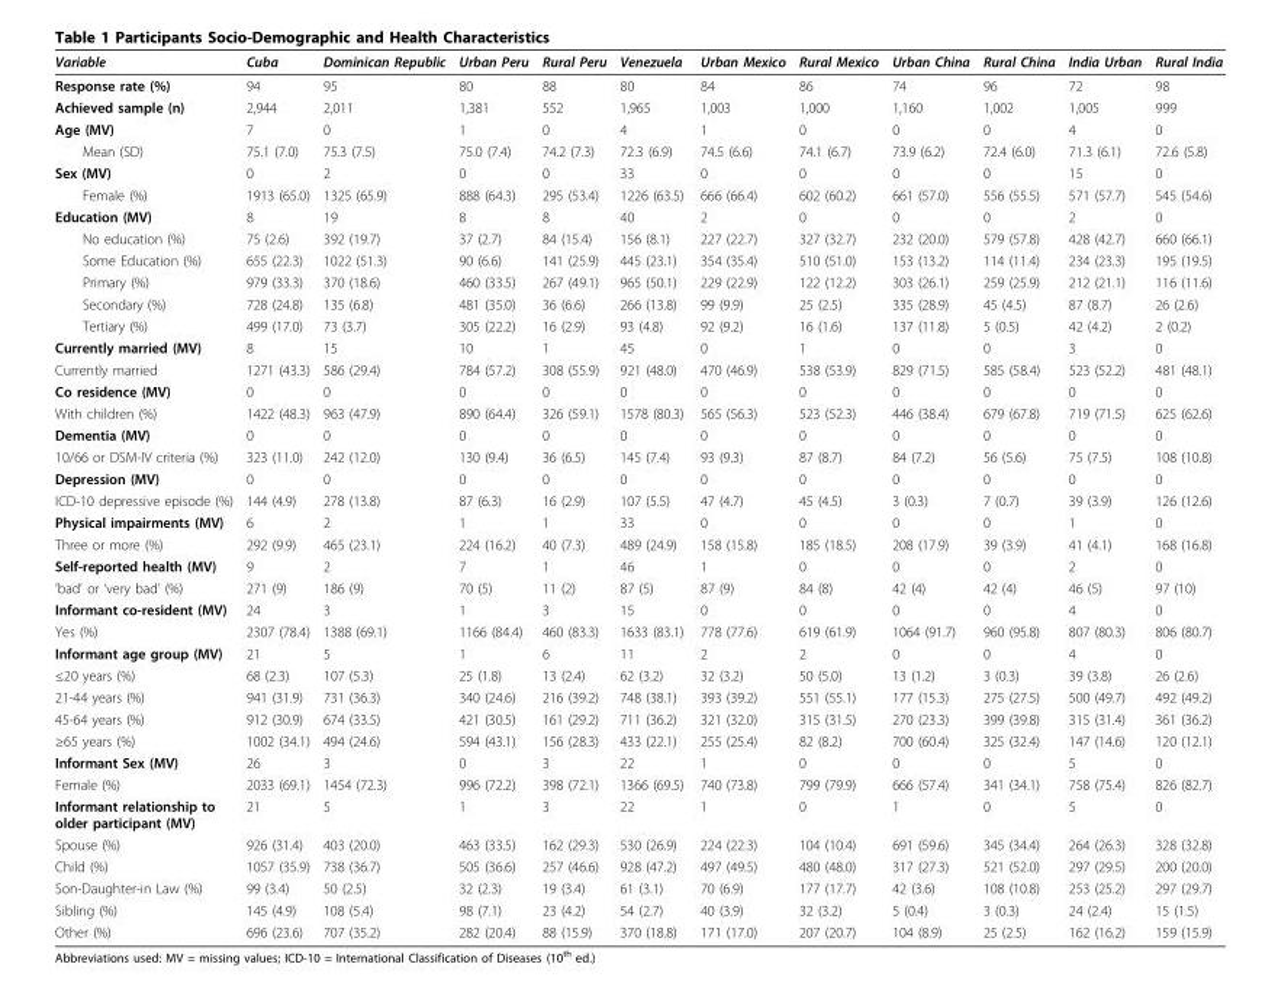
<table><thead><tr><td>Variable</td><td>Cuba</td><td>Dominican Republic</td><td>Urban Peru</td><td>Rural Peru</td><td>Venezuela</td><td>Urban Mexico</td><td>Rural Mexico</td><td>Urban China</td><td>Rural China</td><td>India Urban</td><td>Rural India</td></tr></thead><tbody><tr><td>Response rate (%)</td><td>94</td><td>95</td><td>80</td><td>88</td><td>80</td><td>84</td><td>86</td><td>74</td><td>96</td><td>72</td><td>98</td></tr><tr><td>Achieved sample (n)</td><td>2,944</td><td>2,011</td><td>1,381</td><td>552</td><td>1,965</td><td>1,003</td><td>1,000</td><td>1,160</td><td>1,002</td><td>1,005</td><td>999</td></tr><tr><td>Age (MV)</td><td>7</td><td>0</td><td>1</td><td>0</td><td>4</td><td>1</td><td>0</td><td>0</td><td>0</td><td>4</td><td>0</td></tr><tr><td>Mean (SD)</td><td>75.1 (7.0)</td><td>75.3 (7.5)</td><td>75.0 (7.4)</td><td>74.2 (7.3)</td><td>72.3 (6.9)</td><td>74.5 (6.6)</td><td>74.1 (6.7)</td><td>73.9 (6.2)</td><td>72.4 (6.0)</td><td>71.3 (6.1)</td><td>72.6 (5.8)</td></tr><tr><td>Sex (MV)</td><td>0</td><td>2</td><td>0</td><td>0</td><td>33</td><td>0</td><td>0</td><td>0</td><td>0</td><td>15</td><td>0</td></tr><tr><td>Female (%)</td><td>1913 (65.0)</td><td>1325 (65.9)</td><td>888 (64.3)</td><td>295 (53.4)</td><td>1226 (63.5)</td><td>666 (66.4)</td><td>602 (60.2)</td><td>661 (57.0)</td><td>556 (55.5)</td><td>571 (57.7)</td><td>545 (54.6)</td></tr><tr><td>Education (MV)</td><td>8</td><td>19</td><td>8</td><td>8</td><td>40</td><td>2</td><td>0</td><td>0</td><td>0</td><td>2</td><td>0</td></tr><tr><td>No education (%)</td><td>75 (2.6)</td><td>392 (19.7)</td><td>37 (2.7)</td><td>84 (15.4)</td><td>156 (8.1)</td><td>227 (22.7)</td><td>327 (32.7)</td><td>232 (20.0)</td><td>579 (57.8)</td><td>428 (42.7)</td><td>660 (66.1)</td></tr><tr><td>Some Education (%)</td><td>655 (22.3)</td><td>1022 (51.3)</td><td>90 (6.6)</td><td>141 (25.9)</td><td>445 (23.1)</td><td>354 (35.4)</td><td>510 (51.0)</td><td>153 (13.2)</td><td>114 (11.4)</td><td>234 (23.3)</td><td>195 (19.5)</td></tr><tr><td>Primary (%)</td><td>979 (33.3)</td><td>370 (18.6)</td><td>460 (33.5)</td><td>267 (49.1)</td><td>965 (50.1)</td><td>229 (22.9)</td><td>122 (12.2)</td><td>303 (26.1)</td><td>259 (25.9)</td><td>212 (21.1)</td><td>116 (11.6)</td></tr><tr><td>Secondary (%)</td><td>728 (24.8)</td><td>135 (6.8)</td><td>481 (35.0)</td><td>36 (6.6)</td><td>266 (13.8)</td><td>99 (9.9)</td><td>25 (2.5)</td><td>335 (28.9)</td><td>45 (4.5)</td><td>87 (8.7)</td><td>26 (2.6)</td></tr><tr><td>Tertiary (%)</td><td>499 (17.0)</td><td>73 (3.7)</td><td>305 (22.2)</td><td>16 (2.9)</td><td>93 (4.8)</td><td>92 (9.2)</td><td>16 (1.6)</td><td>137 (11.8)</td><td>5 (0.5)</td><td>42 (4.2)</td><td>2 (0.2)</td></tr><tr><td>Currently married (MV)</td><td>8</td><td>15</td><td>10</td><td>1</td><td>45</td><td>0</td><td>1</td><td>0</td><td>0</td><td>3</td><td>0</td></tr><tr><td>Currently married</td><td>1271 (43.3)</td><td>586 (29.4)</td><td>784 (57.2)</td><td>308 (55.9)</td><td>921 (48.0)</td><td>470 (46.9)</td><td>538 (53.9)</td><td>829 (71.5)</td><td>585 (58.4)</td><td>523 (52.2)</td><td>481 (48.1)</td></tr><tr><td>Co residence (MV)</td><td>0</td><td>0</td><td>0</td><td>0</td><td>0</td><td>0</td><td>0</td><td>0</td><td>0</td><td>0</td><td>0</td></tr><tr><td>With children (%)</td><td>1422 (48.3)</td><td>963 (47.9)</td><td>890 (64.4)</td><td>326 (59.1)</td><td>1578 (80.3)</td><td>565 (56.3)</td><td>523 (52.3)</td><td>446 (38.4)</td><td>679 (67.8)</td><td>719 (71.5)</td><td>625 (62.6)</td></tr><tr><td>Dementia (MV)</td><td>0</td><td>0</td><td>0</td><td>0</td><td>0</td><td>0</td><td>0</td><td>0</td><td>0</td><td>0</td><td>0</td></tr><tr><td>10/66 or DSM-IV criteria (%)</td><td>323 (11.0)</td><td>242 (12.0)</td><td>130 (9.4)</td><td>36 (6.5)</td><td>145 (7.4)</td><td>93 (9.3)</td><td>87 (8.7)</td><td>84 (7.2)</td><td>56 (5.6)</td><td>75 (7.5)</td><td>108 (10.8)</td></tr><tr><td>Depression (MV)</td><td>0</td><td>0</td><td>0</td><td>0</td><td>0</td><td>0</td><td>0</td><td>0</td><td>0</td><td>0</td><td>0</td></tr><tr><td>ICD-10 depressive episode (%)</td><td>144 (4.9)</td><td>278 (13.8)</td><td>87 (6.3)</td><td>16 (2.9)</td><td>107 (5.5)</td><td>47 (4.7)</td><td>45 (4.5)</td><td>3 (0.3)</td><td>7 (0.7)</td><td>39 (3.9)</td><td>126 (12.6)</td></tr><tr><td>Physical impairments (MV)</td><td>6</td><td>2</td><td>1</td><td>1</td><td>33</td><td>0</td><td>0</td><td>0</td><td>0</td><td>1</td><td>0</td></tr><tr><td>Three or more (%)</td><td>292 (9.9)</td><td>465 (23.1)</td><td>224 (16.2)</td><td>40 (7.3)</td><td>489 (24.9)</td><td>158 (15.8)</td><td>185 (18.5)</td><td>208 (17.9)</td><td>39 (3.9)</td><td>41 (4.1)</td><td>168 (16.8)</td></tr><tr><td>Self-reported health (MV)</td><td>9</td><td>2</td><td>7</td><td>1</td><td>46</td><td>1</td><td>0</td><td>0</td><td>0</td><td>2</td><td>0</td></tr><tr><td>’bad’ or ‘very bad’ (%)</td><td>271 (9)</td><td>186 (9)</td><td>70 (5)</td><td>11 (2)</td><td>87 (5)</td><td>87 (9)</td><td>84 (8)</td><td>42 (4)</td><td>42 (4)</td><td>46 (5)</td><td>97 (10)</td></tr><tr><td>Informant co-resident (MV)</td><td>24</td><td>3</td><td>1</td><td>3</td><td>15</td><td>0</td><td>0</td><td>0</td><td>0</td><td>4</td><td>0</td></tr><tr><td>Yes (%)</td><td>2307 (78.4)</td><td>1388 (69.1)</td><td>1166 (84.4)</td><td>460 (83.3)</td><td>1633 (83.1)</td><td>778 (77.6)</td><td>619 (61.9)</td><td>1064 (91.7)</td><td>960 (95.8)</td><td>807 (80.3)</td><td>806 (80.7)</td></tr><tr><td>Informant age group (MV)</td><td>21</td><td>5</td><td>1</td><td>6</td><td>11</td><td>2</td><td>2</td><td>0</td><td>0</td><td>4</td><td>0</td></tr><tr><td>≤20 years (%)</td><td>68 (2.3)</td><td>107 (5.3)</td><td>25 (1.8)</td><td>13 (2.4)</td><td>62 (3.2)</td><td>32 (3.2)</td><td>50 (5.0)</td><td>13 (1.2)</td><td>3 (0.3)</td><td>39 (3.8)</td><td>26 (2.6)</td></tr><tr><td>21-44 years (%)</td><td>941 (31.9)</td><td>731 (36.3)</td><td>340 (24.6)</td><td>216 (39.2)</td><td>748 (38.1)</td><td>393 (39.2)</td><td>551 (55.1)</td><td>177 (15.3)</td><td>275 (27.5)</td><td>500 (49.7)</td><td>492 (49.2)</td></tr><tr><td>45-64 years (%)</td><td>912 (30.9)</td><td>674 (33.5)</td><td>421 (30.5)</td><td>161 (29.2)</td><td>711 (36.2)</td><td>321 (32.0)</td><td>315 (31.5)</td><td>270 (23.3)</td><td>399 (39.8)</td><td>315 (31.4)</td><td>361 (36.2)</td></tr><tr><td>≥65 years (%)</td><td>1002 (34.1)</td><td>494 (24.6)</td><td>594 (43.1)</td><td>156 (28.3)</td><td>433 (22.1)</td><td>255 (25.4)</td><td>82 (8.2)</td><td>700 (60.4)</td><td>325 (32.4)</td><td>147 (14.6)</td><td>120 (12.1)</td></tr><tr><td>Informant Sex (MV)</td><td>26</td><td>3</td><td>0</td><td>3</td><td>22</td><td>1</td><td>0</td><td>0</td><td>0</td><td>5</td><td>0</td></tr><tr><td>Female (%)</td><td>2033 (69.1)</td><td>1454 (72.3)</td><td>996 (72.2)</td><td>398 (72.1)</td><td>1366 (69.5)</td><td>740 (73.8)</td><td>799 (79.9)</td><td>666 (57.4)</td><td>341 (34.1)</td><td>758 (75.4)</td><td>826 (82.7)</td></tr><tr><td>Informant relationship to older participant (MV)</td><td>21</td><td>5</td><td>1</td><td>3</td><td>22</td><td>1</td><td>0</td><td>1</td><td>0</td><td>5</td><td>0</td></tr><tr><td>Spouse (%)</td><td>926 (31.4)</td><td>403 (20.0)</td><td>463 (33.5)</td><td>162 (29.3)</td><td>530 (26.9)</td><td>224 (22.3)</td><td>104 (10.4)</td><td>691 (59.6)</td><td>345 (34.4)</td><td>264 (26.3)</td><td>328 (32.8)</td></tr><tr><td>Child (%)</td><td>1057 (35.9)</td><td>738 (36.7)</td><td>505 (36.6)</td><td>257 (46.6)</td><td>928 (47.2)</td><td>497 (49.5)</td><td>480 (48.0)</td><td>317 (27.3)</td><td>521 (52.0)</td><td>297 (29.5)</td><td>200 (20.0)</td></tr><tr><td>Son-Daughter-in Law (%)</td><td>99 (3.4)</td><td>50 (2.5)</td><td>32 (2.3)</td><td>19 (3.4)</td><td>61 (3.1)</td><td>70 (6.9)</td><td>177 (17.7)</td><td>42 (3.6)</td><td>108 (10.8)</td><td>253 (25.2)</td><td>297 (29.7)</td></tr><tr><td>Sibling (%)</td><td>145 (4.9)</td><td>108 (5.4)</td><td>98 (7.1)</td><td>23 (4.2)</td><td>54 (2.7)</td><td>40 (3.9)</td><td>32 (3.2)</td><td>5 (0.4)</td><td>3 (0.3)</td><td>24 (2.4)</td><td>15 (1.5)</td></tr><tr><td>Other (%)</td><td>696 (23.6)</td><td>707 (35.2)</td><td>282 (20.4)</td><td>88 (15.9)</td><td>370 (18.8)</td><td>171 (17.0)</td><td>207 (20.7)</td><td>104 (8.9)</td><td>25 (2.5)</td><td>162 (16.2)</td><td>159 (15.9)</td></tr></tbody></table>